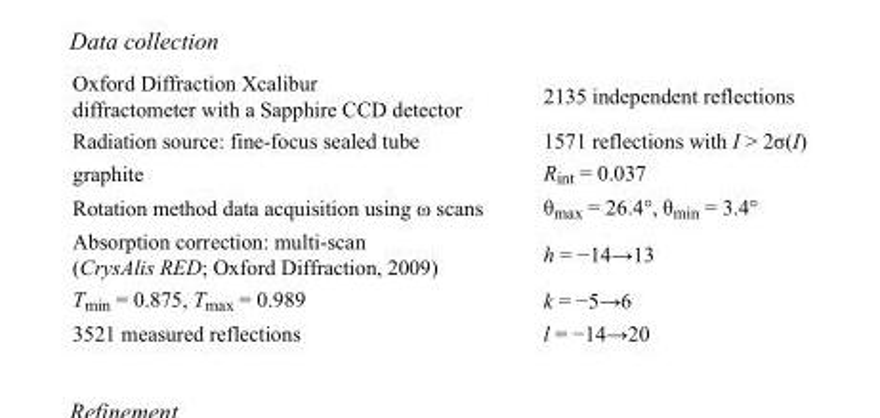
<table><tbody><tr><td>Oxford Diffraction Xcalibur diffractometer with a Sapphire CCD detector</td><td>2135 independent reflections</td></tr><tr><td>Radiation source: fine-focus sealed tube</td><td>1571 reflections with I &gt; 2σ(I)</td></tr><tr><td>graphite</td><td>R<sub>int</sub> = 0.037</td></tr><tr><td>Rotation method data acquisition using ω scans</td><td>θ<sub>max</sub> = 26.4°, θ<sub>min</sub> = 3.4°</td></tr><tr><td>Absorption correction: multi-scan (CrysAlis RED; Oxford Diffraction, 2009)</td><td>h = −14→13</td></tr><tr><td>T<sub>min</sub> = 0.875, T<sub>max</sub> = 0.989</td><td>k = −5→6</td></tr><tr><td>3521 measured reflections</td><td>l = −14→20</td></tr></tbody></table>